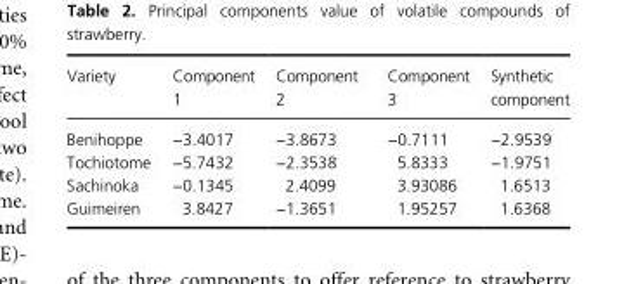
<table><thead><tr><td>Variety</td><td>Component 1</td><td>Component 2</td><td>Component 3</td><td>Synthetic component</td></tr></thead><tbody><tr><td>Benihoppe</td><td>−3.4017</td><td>−3.8673</td><td>−0.7111</td><td>−2.9539</td></tr><tr><td>Tochiotome</td><td>−5.7432</td><td>−2.3538</td><td>5.8333</td><td>−1.9751</td></tr><tr><td>Sachinoka</td><td>−0.1345</td><td>2.4099</td><td>3.93086</td><td>1.6513</td></tr><tr><td>Guimeiren</td><td>3.8427</td><td>−1.3651</td><td>1.95257</td><td>1.6368</td></tr></tbody></table>